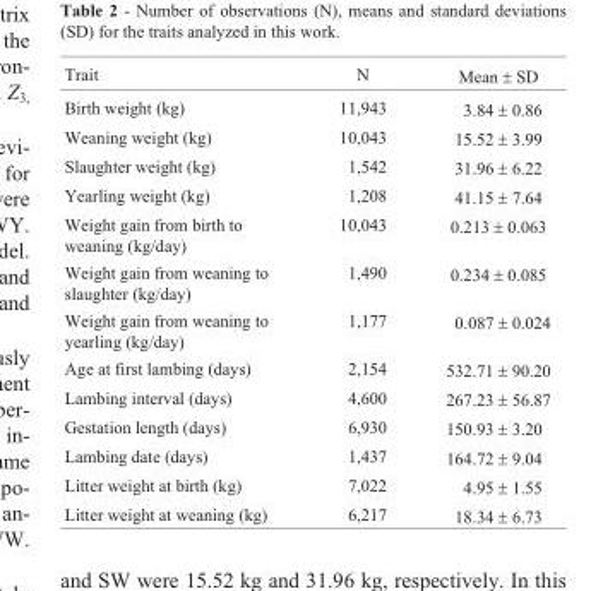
<table><thead><tr><td>Trait</td><td>N</td><td>Mean ± SD</td></tr></thead><tbody><tr><td>Birth weight (kg)</td><td>11,943</td><td>3.84 ± 0.86</td></tr><tr><td>Weaning weight (kg)</td><td>10,043</td><td>15.52 ± 3.99</td></tr><tr><td>Slaughter weight (kg)</td><td>1,542</td><td>31.96 ± 6.22</td></tr><tr><td>Yearling weight (kg)</td><td>1,208</td><td>41.15 ± 7.64</td></tr><tr><td>Weight gain from birth to weaning (kg/day)</td><td>10,043</td><td>0.213 ± 0.063</td></tr><tr><td>Weight gain from weaning to slaughter (kg/day)</td><td>1,490</td><td>0.234 ± 0.085</td></tr><tr><td>Weight gain from weaning to yearling (kg/day)</td><td>1,177</td><td>0.087 ± 0.024</td></tr><tr><td>Age at first lambing (days)</td><td>2,154</td><td>532.71 ± 90.20</td></tr><tr><td>Lambing interval (days)</td><td>4,600</td><td>267.23 ± 56.87</td></tr><tr><td>Gestation length (days)</td><td>6,930</td><td>150.93 ± 3.20</td></tr><tr><td>Lambing date (days)</td><td>1,437</td><td>164.72 ± 9.04</td></tr><tr><td>Litter weight at birth (kg)</td><td>7,022</td><td>4.95 ± 1.55</td></tr><tr><td>Litter weight at weaning (kg)</td><td>6,217</td><td>18.34 ± 6.73</td></tr></tbody></table>